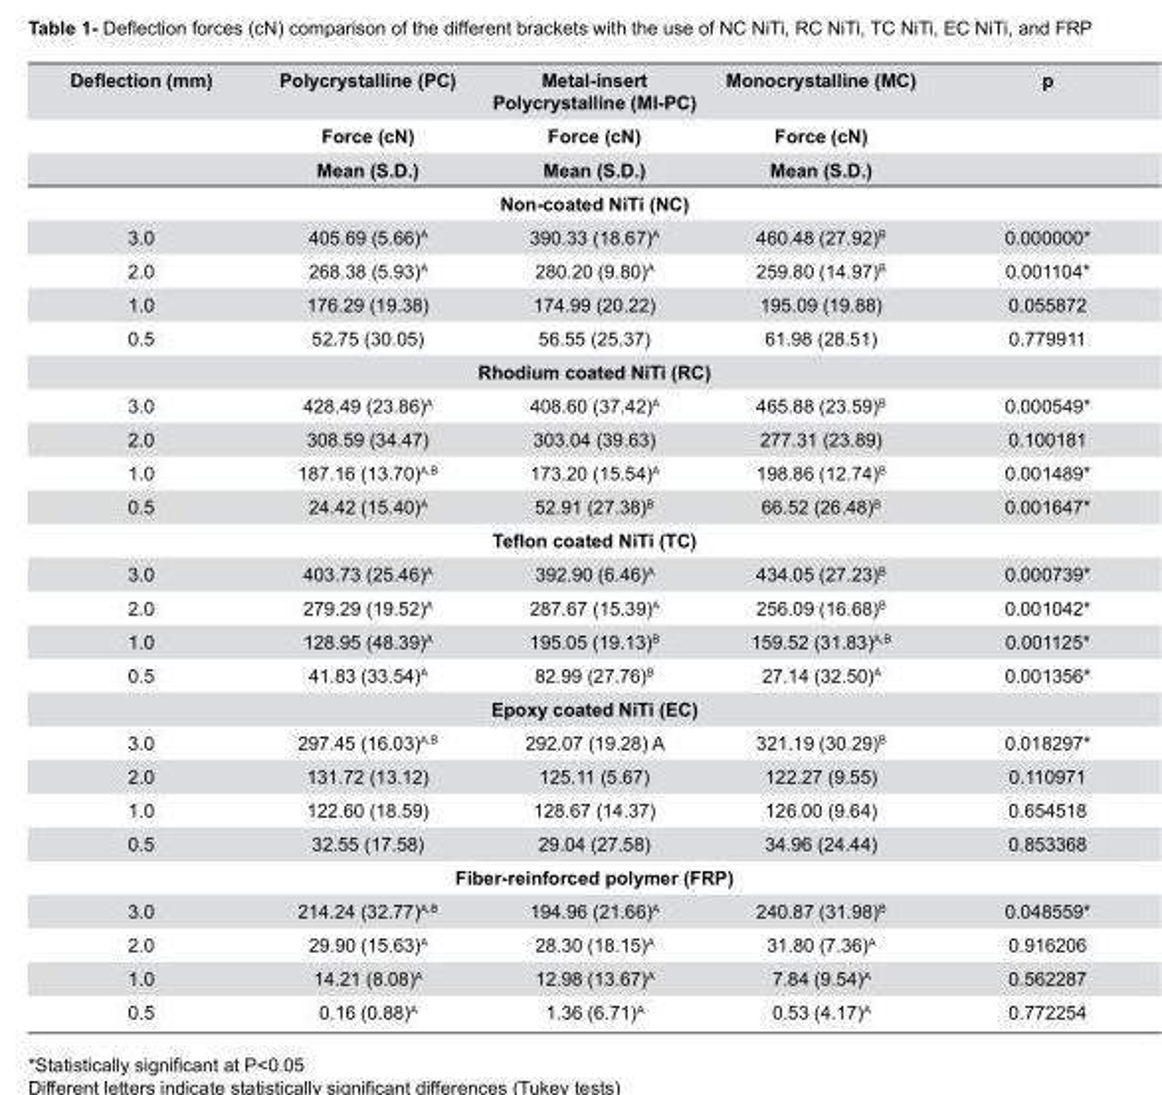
<table><thead><tr><td rowspan="3">Deflection (mm)</td><td rowspan="3">Polycrystalline (PC) Force (cN) Mean (S.D.)</td><td rowspan="3">Metal-insert Polycrystalline (MI-PC) Force (cN) Mean (S.D.)</td><td rowspan="3">Monocrystalline (MC) Force (cN) Mean (S.D.)</td><td rowspan="3">p</td></tr><tr></tr><tr></tr></thead><tbody><tr><td colspan="5">Non-coated NiTi (NC)</td></tr><tr><td>3.0</td><td>405.69 (5.66)<sup>A</sup></td><td>390.33 (18.67)<sup>A</sup></td><td>460.48 (27.92)<sup>B</sup></td><td>0.000000*</td></tr><tr><td>2.0</td><td>268.38 (5.93)<sup>A</sup></td><td>280.20 (9.80)<sup>A</sup></td><td>259.80 (14.97)<sup>B</sup></td><td>0.001104*</td></tr><tr><td>1.0</td><td>176.29 (19.38)</td><td>174.99 (20.22)</td><td>195.09 (19.88)</td><td>0.055872</td></tr><tr><td>0.5</td><td>52.75 (30.05)</td><td>56.55 (25.37)</td><td>61.98 (28.51)</td><td>0.779911</td></tr><tr><td colspan="5">Rhodium coated NiTi (RC)</td></tr><tr><td>3.0</td><td>428.49 (23.86)<sup>A</sup></td><td>408.60 (37.42)<sup>A</sup></td><td>465.88 (23.59)<sup>B</sup></td><td>0.000549*</td></tr><tr><td>2.0</td><td>308.59 (34.47)</td><td>303.04 (39.63)</td><td>277.31 (23.89)</td><td>0.100181</td></tr><tr><td>1.0</td><td>187.16 (13.70)<sup>A,B</sup></td><td>173.20 (15.54)<sup>A</sup></td><td>198.86 (12.74)<sup>B</sup></td><td>0.001489*</td></tr><tr><td>0.5</td><td>24.42 (15.40)<sup>A</sup></td><td>52.91 (27.38)<sup>B</sup></td><td>66.52 (26.48)<sup>B</sup></td><td>0.001647*</td></tr><tr><td colspan="5">Teflon coated NiTi (TC)</td></tr><tr><td>3.0</td><td>403.73 (25.46)<sup>A</sup></td><td>392.90 (6.46)<sup>A</sup></td><td>434.05 (27.23)<sup>B</sup></td><td>0.000739*</td></tr><tr><td>2.0</td><td>279.29 (19.52)<sup>A</sup></td><td>287.67 (15.39)<sup>A</sup></td><td>256.09 (16.68)<sup>B</sup></td><td>0.001042*</td></tr><tr><td>1.0</td><td>128.95 (48.39)<sup>A</sup></td><td>195.05 (19.13)<sup>B</sup></td><td>159.52 (31.83)<sup>A,B</sup></td><td>0.001125*</td></tr><tr><td>0.5</td><td>41.83 (33.54)<sup>A</sup></td><td>82.99 (27.76)<sup>B</sup></td><td>27.14 (32.50)<sup>A</sup></td><td>0.001356*</td></tr><tr><td colspan="5">Epoxy coated NiTi (EC)</td></tr><tr><td>3.0</td><td>297.45 (16.03)<sup>A,B</sup></td><td>292.07 (19.28) A</td><td>321.19 (30.29)<sup>B</sup></td><td>0.018297*</td></tr><tr><td>2.0</td><td>131.72 (13.12)</td><td>125.11 (5.67)</td><td>122.27 (9.55)</td><td>0.110971</td></tr><tr><td>1.0</td><td>122.60 (18.59)</td><td>128.67 (14.37)</td><td>126.00 (9.64)</td><td>0.654518</td></tr><tr><td>0.5</td><td>32.55 (17.58)</td><td>29.04 (27.58)</td><td>34.96 (24.44)</td><td>0.853368</td></tr><tr><td colspan="5">Fiber-reinforced polymer (FRP)</td></tr><tr><td>3.0</td><td>214.24 (32.77)<sup>A,B</sup></td><td>194.96 (21.66)<sup>A</sup></td><td>240.87 (31.98)<sup>B</sup></td><td>0.048559*</td></tr><tr><td>2.0</td><td>29.90 (15.63)<sup>A</sup></td><td>28.30 (18.15)<sup>A</sup></td><td>31.80 (7.36)<sup>A</sup></td><td>0.916206</td></tr><tr><td>1.0</td><td>14.21 (8.08)<sup>A</sup></td><td>12.98 (13.67)<sup>A</sup></td><td>7.84 (9.54)<sup>A</sup></td><td>0.562287</td></tr><tr><td>0.5</td><td>0.16 (0.88)<sup>A</sup></td><td>1.36 (6.71)<sup>A</sup></td><td>0.53 (4.17)<sup>A</sup></td><td>0.772254</td></tr></tbody></table>